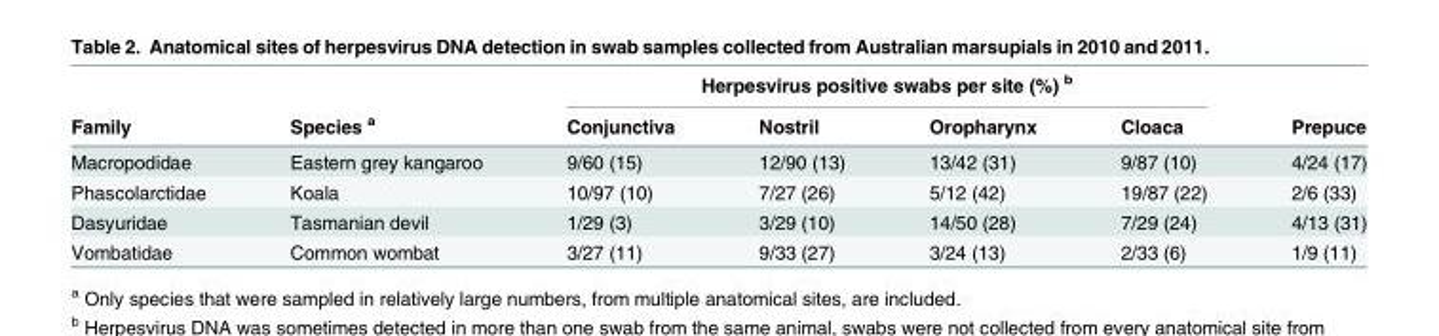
<table><thead><tr><td rowspan="2">Family</td><td rowspan="2">Species <sup>a</sup></td><td colspan="4">Herpesvirus positive swabs per site (%) <sup>b</sup></td><td rowspan="2">Prepuce</td></tr><tr><td>Conjunctiva</td><td>Nostril</td><td>Oropharynx</td><td>Cloaca</td></tr></thead><tbody><tr><td>Macropodidae</td><td>Eastern grey kangaroo</td><td>9/60 (15)</td><td>12/90 (13)</td><td>13/42 (31)</td><td>9/87 (10)</td><td>4/24 (17)</td></tr><tr><td>Phascolarctidae</td><td>Koala</td><td>10/97 (10)</td><td>7/27 (26)</td><td>5/12 (42)</td><td>19/87 (22)</td><td>2/6 (33)</td></tr><tr><td>Dasyuridae</td><td>Tasmanian devil</td><td>1/29 (3)</td><td>3/29 (10)</td><td>14/50 (28)</td><td>7/29 (24)</td><td>4/13 (31)</td></tr><tr><td>Vombatidae</td><td>Common wombat</td><td>3/27 (11)</td><td>9/33 (27)</td><td>3/24 (13)</td><td>2/33 (6)</td><td>1/9 (11)</td></tr></tbody></table>